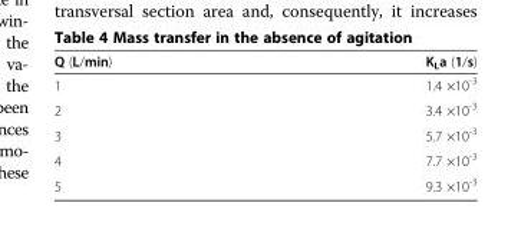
<table><thead><tr><td>Q (L/min)</td><td>K<sub>L</sub>a (1/s)</td></tr></thead><tbody><tr><td>1</td><td>1.4 ×10<sup>-3</sup></td></tr><tr><td>2</td><td>3.4 ×10<sup>-3</sup></td></tr><tr><td>3</td><td>5.7 ×10<sup>-3</sup></td></tr><tr><td>4</td><td>7.7 ×10<sup>-3</sup></td></tr><tr><td>5</td><td>9.3 ×10<sup>-3</sup></td></tr></tbody></table>